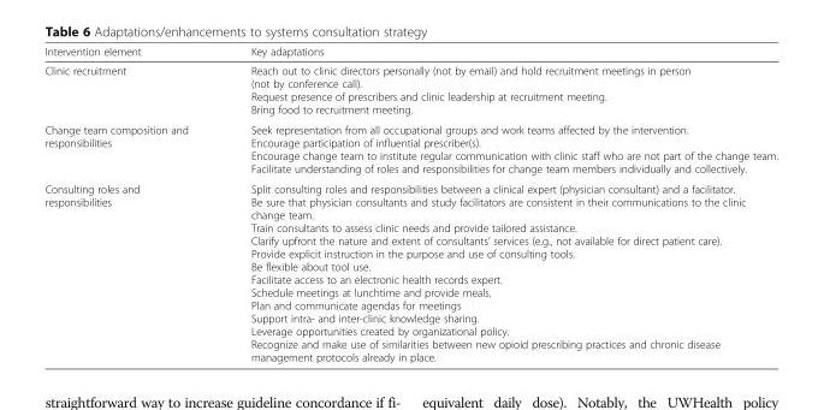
<table><thead><tr><td>Intervention element</td><td>Key adaptations</td></tr></thead><tbody><tr><td>Clinic recruitment</td><td>Reach out to clinic directors personally (not by email) and hold recruitment meetings in person (not by conference call). Request presence of prescribers and clinic leadership at recruitment meeting. Bring food to recruitment meeting.</td></tr><tr><td>Change team composition and responsibilities</td><td>Seek representation from all occupational groups and work teams affected by the intervention. Encourage participation of influential prescriber(s). Encourage change team to institute regular communication with clinic staff who are not part of the change team. Facilitate understanding of roles and responsibilities for change team members individually and collectively.</td></tr><tr><td>Consulting roles and responsibilities</td><td>Split consulting roles and responsibilities between a clinical expert (physician consultant) and a facilitator. Be sure that physician consultants and study facilitators are consistent in their communications to the clinic change team. Train consultants to assess clinic needs and provide tailored assistance. Clarify upfront the nature and extent of consultants’ services (e.g., not available for direct patient care). Provide explicit instruction in the purpose and use of consulting tools. Be flexible about tool use. Facilitate access to an electronic health records expert. Schedule meetings at lunchtime and provide meals. Plan and communicate agendas for meetings Support intra- and inter-clinic knowledge sharing. Leverage opportunities created by organizational policy. Recognize and make use of similarities between new opioid prescribing practices and chronic disease management protocols already in place.</td></tr></tbody></table>